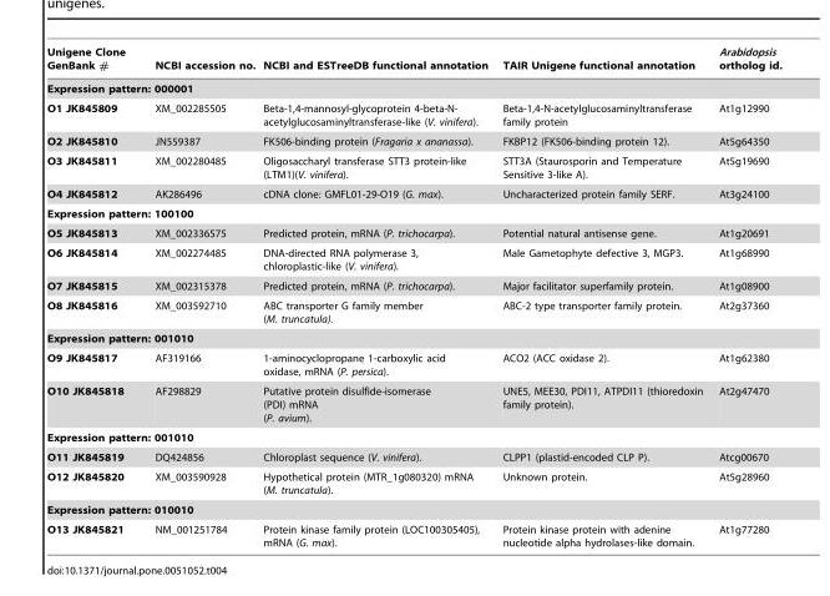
<table><thead><tr><td>Unigene Clone GenBank #</td><td>NCBI accession no.</td><td>NCBI and ESTreeDB functional annotation</td><td>TAIR Unigene functional annotation</td><td>Arabidopsis ortholog id.</td></tr></thead><tbody><tr><td colspan="5">Expression pattern: 000001</td></tr><tr><td>O1 JK845809</td><td>XM_002285505</td><td>Beta-1,4-mannosyl-glycoprotein 4-beta-N- acetylglucosaminyltransferase-like (V. vinifera).</td><td>Beta-1,4-N-acetylglucosaminyltransferase family protein</td><td>At1g12990</td></tr><tr><td>O2 JK845810</td><td>JN559387</td><td>FK506-binding protein (Fragaria x ananassa).</td><td>FKBP12 (FK506-binding protein 12).</td><td>At5g64350</td></tr><tr><td>O3 JK845811</td><td>XM_002280485</td><td>Oligosaccharyl transferase STT3 protein-like (LTM1)(V. vinifera).</td><td>STT3A (Staurosporin and Temperature Sensitive 3-like A).</td><td>At5g19690</td></tr><tr><td>O4 JK845812</td><td>AK286496</td><td>cDNA clone: GMFL01-29-O19 (G. max).</td><td>Uncharacterized protein family SERF.</td><td>At3g24100</td></tr><tr><td colspan="5">Expression pattern: 100100</td></tr><tr><td>O5 JK845813</td><td>XM_002336575</td><td>Predicted protein, mRNA (P. trichocarpa).</td><td>Potential natural antisense gene.</td><td>At1g20691</td></tr><tr><td>O6 JK845814</td><td>XM_002274485</td><td>DNA-directed RNA polymerase 3, chloroplastic-like (V. vinifera).</td><td>Male Gametophyte defective 3, MGP3.</td><td>At1g68990</td></tr><tr><td>O7 JK845815</td><td>XM_002315378</td><td>Predicted protein, mRNA (P. trichocarpa).</td><td>Major facilitator superfamily protein.</td><td>At1g08900</td></tr><tr><td>O8 JK845816</td><td>XM_003592710</td><td>ABC transporter G family member (M. truncatula).</td><td>ABC-2 type transporter family protein.</td><td>At2g37360</td></tr><tr><td colspan="5">Expression pattern: 001010</td></tr><tr><td>O9 JK845817</td><td>AF319166</td><td>1-aminocyclopropane 1-carboxylic acid oxidase, mRNA (P. persica).</td><td>ACO2 (ACC oxidase 2).</td><td>At1g62380</td></tr><tr><td>O10 JK845818</td><td>AF298829</td><td>Putative protein disulfide-isomerase (PDI) mRNA (P. avium).</td><td>UNE5, MEE30, PDI11, ATPDI11 (thioredoxin family protein).</td><td>At2g47470</td></tr><tr><td colspan="5">Expression pattern: 001010</td></tr><tr><td>O11 JK845819</td><td>DQ424856</td><td>Chloroplast sequence (V. vinifera).</td><td>CLPP1 (plastid-encoded CLP P).</td><td>Atcg00670</td></tr><tr><td>O12 JK845820</td><td>XM_003590928</td><td>Hypothetical protein (MTR_1g080320) mRNA (M. truncatula).</td><td>Unknown protein.</td><td>At5g28960</td></tr><tr><td colspan="5">Expression pattern: 010010</td></tr><tr><td>O13 JK845821</td><td>NM_001251784</td><td>Protein kinase family protein (LOC100305405), mRNA (G. max).</td><td>Protein kinase protein with adenine nucleotide alpha hydrolases-like domain.</td><td>At1g77280</td></tr></tbody></table>